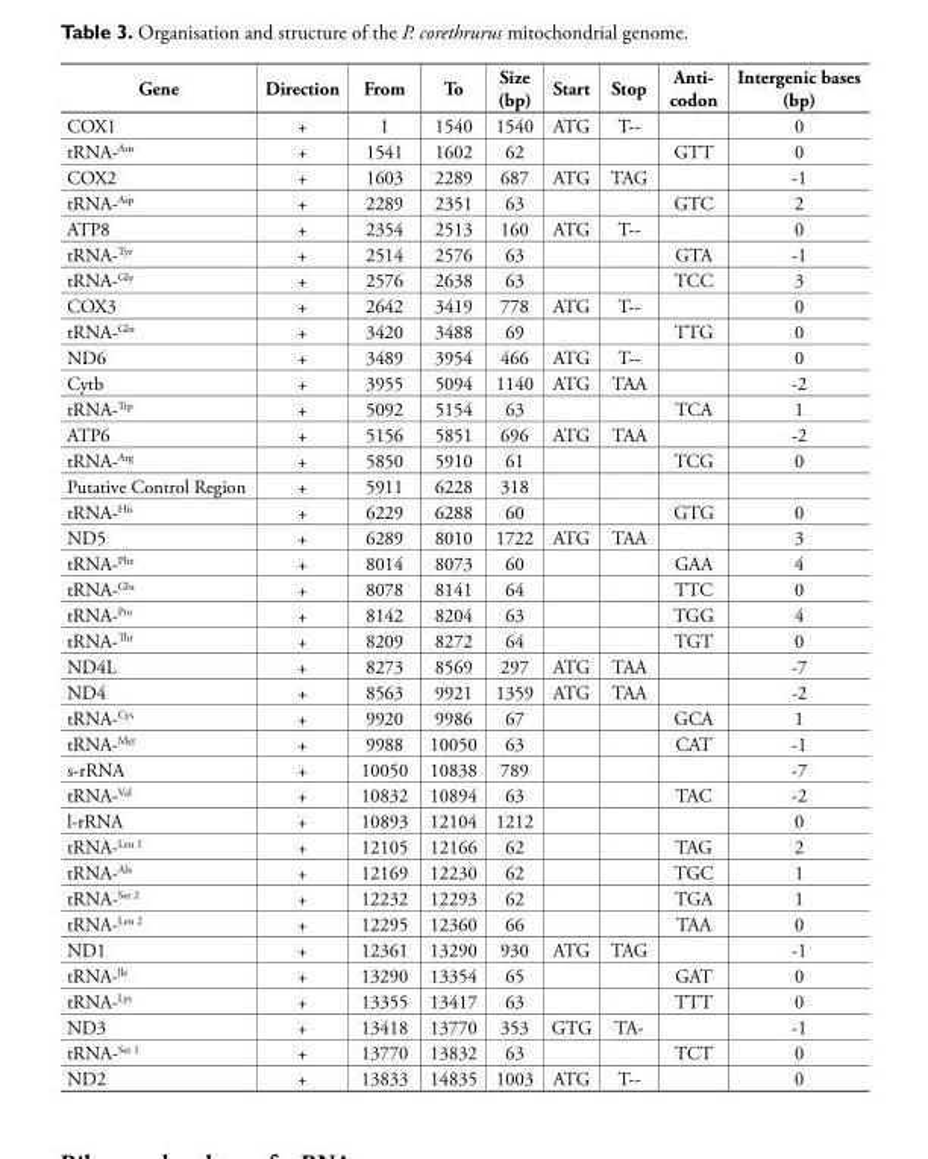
<table><thead><tr><td>Gene</td><td>Direction</td><td>From</td><td>To</td><td>Size (bp)</td><td>Start</td><td>Stop</td><td>Anti- codon</td><td>Intergenic bases (bp)</td></tr></thead><tbody><tr><td>COX1</td><td>+</td><td>1</td><td>1540</td><td>1540</td><td>ATG</td><td>T--</td><td></td><td>0</td></tr><tr><td>tRNA-<sup>Asn</sup></td><td>+</td><td>1541</td><td>1602</td><td>62</td><td></td><td></td><td>GTT</td><td>0</td></tr><tr><td>COX2</td><td>+</td><td>1603</td><td>2289</td><td>687</td><td>ATG</td><td>TAG</td><td></td><td>-1</td></tr><tr><td>tRNA-<sup>Asp</sup></td><td>+</td><td>2289</td><td>2351</td><td>63</td><td></td><td></td><td>GTC</td><td>2</td></tr><tr><td>ATP8</td><td>+</td><td>2354</td><td>2513</td><td>160</td><td>ATG</td><td>T--</td><td></td><td>0</td></tr><tr><td>tRNA-<sup>Tyr</sup></td><td>+</td><td>2514</td><td>2576</td><td>63</td><td></td><td></td><td>GTA</td><td>-1</td></tr><tr><td>tRNA-<sup>Gly</sup></td><td>+</td><td>2576</td><td>2638</td><td>63</td><td></td><td></td><td>TCC</td><td>3</td></tr><tr><td>COX3</td><td>+</td><td>2642</td><td>3419</td><td>778</td><td>ATG</td><td>T--</td><td></td><td>0</td></tr><tr><td>tRNA-<sup>Gln</sup></td><td>+</td><td>3420</td><td>3488</td><td>69</td><td></td><td></td><td>TTG</td><td>0</td></tr><tr><td>ND6</td><td>+</td><td>3489</td><td>3954</td><td>466</td><td>ATG</td><td>T--</td><td></td><td>0</td></tr><tr><td>Cytb</td><td>+</td><td>3955</td><td>5094</td><td>1140</td><td>ATG</td><td>TAA</td><td></td><td>-2</td></tr><tr><td>tRNA-<sup>Trp</sup></td><td>+</td><td>5092</td><td>5154</td><td>63</td><td></td><td></td><td>TCA</td><td>1</td></tr><tr><td>ATP6</td><td>+</td><td>5156</td><td>5851</td><td>696</td><td>ATG</td><td>TAA</td><td></td><td>-2</td></tr><tr><td>tRNA-<sup>Arg</sup></td><td>+</td><td>5850</td><td>5910</td><td>61</td><td></td><td></td><td>TCG</td><td>0</td></tr><tr><td>Putative Control Region</td><td>+</td><td>5911</td><td>6228</td><td>318</td><td></td><td></td><td></td><td></td></tr><tr><td>tRNA-<sup>His</sup></td><td>+</td><td>6229</td><td>6288</td><td>60</td><td></td><td></td><td>GTG</td><td>0</td></tr><tr><td>ND5</td><td>+</td><td>6289</td><td>8010</td><td>1722</td><td>ATG</td><td>TAA</td><td></td><td>3</td></tr><tr><td>tRNA-<sup>Phe</sup></td><td>+</td><td>8014</td><td>8073</td><td>60</td><td></td><td></td><td>GAA</td><td>4</td></tr><tr><td>tRNA-<sup>Glu</sup></td><td>+</td><td>8078</td><td>8141</td><td>64</td><td></td><td></td><td>TTC</td><td>0</td></tr><tr><td>tRNA-<sup>Pro</sup></td><td>+</td><td>8142</td><td>8204</td><td>63</td><td></td><td></td><td>TGG</td><td>4</td></tr><tr><td>tRNA-<sup>Thr</sup></td><td>+</td><td>8209</td><td>8272</td><td>64</td><td></td><td></td><td>TGT</td><td>0</td></tr><tr><td>ND4L</td><td>+</td><td>8273</td><td>8569</td><td>297</td><td>ATG</td><td>TAA</td><td></td><td>-7</td></tr><tr><td>ND4</td><td>+</td><td>8563</td><td>9921</td><td>1359</td><td>ATG</td><td>TAA</td><td></td><td>-2</td></tr><tr><td>tRNA-<sup>Cys</sup></td><td>+</td><td>9920</td><td>9986</td><td>67</td><td></td><td></td><td>GCA</td><td>1</td></tr><tr><td>tRNA-<sup>Met</sup></td><td>+</td><td>9988</td><td>10050</td><td>63</td><td></td><td></td><td>CAT</td><td>-1</td></tr><tr><td>s-rRNA</td><td>+</td><td>10050</td><td>10838</td><td>789</td><td></td><td></td><td></td><td>-7</td></tr><tr><td>tRNA-<sup>Val</sup></td><td>+</td><td>10832</td><td>10894</td><td>63</td><td></td><td></td><td>TAC</td><td>-2</td></tr><tr><td>l-rRNA</td><td>+</td><td>10893</td><td>12104</td><td>1212</td><td></td><td></td><td></td><td>0</td></tr><tr><td>tRNA-<sup>Leu 1</sup></td><td>+</td><td>12105</td><td>12166</td><td>62</td><td></td><td></td><td>TAG</td><td>2</td></tr><tr><td>tRNA-<sup>Ala</sup></td><td>+</td><td>12169</td><td>12230</td><td>62</td><td></td><td></td><td>TGC</td><td>1</td></tr><tr><td>tRNA-<sup>Ser 2</sup></td><td>+</td><td>12232</td><td>12293</td><td>62</td><td></td><td></td><td>TGA</td><td>1</td></tr><tr><td>tRNA-<sup>Leu 2</sup></td><td>+</td><td>12295</td><td>12360</td><td>66</td><td></td><td></td><td>TAA</td><td>0</td></tr><tr><td>ND1</td><td>+</td><td>12361</td><td>13290</td><td>930</td><td>ATG</td><td>TAG</td><td></td><td>-1</td></tr><tr><td>tRNA-<sup>lle</sup></td><td>+</td><td>13290</td><td>13354</td><td>65</td><td></td><td></td><td>GAT</td><td>0</td></tr><tr><td>tRNA-<sup>Lys</sup></td><td>+</td><td>13355</td><td>13417</td><td>63</td><td></td><td></td><td>TTT</td><td>0</td></tr><tr><td>ND3</td><td>+</td><td>13418</td><td>13770</td><td>353</td><td>GTG</td><td>TA-</td><td></td><td>-1</td></tr><tr><td>tRNA-<sup>Ser 1</sup></td><td>+</td><td>13770</td><td>13832</td><td>63</td><td></td><td></td><td>TCT</td><td>0</td></tr><tr><td>ND2</td><td>+</td><td>13833</td><td>14835</td><td>1003</td><td>ATG</td><td>T--</td><td></td><td>0</td></tr></tbody></table>